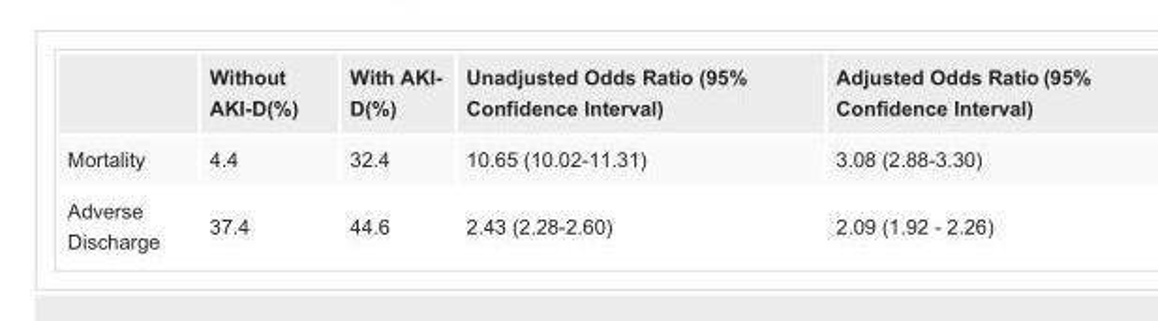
<table><thead><tr><td></td><td>Without AKI-D(%)</td><td>With AKI- D(%)</td><td>Unadjusted Odds Ratio (95% Confidence Interval)</td><td>Adjusted Odds Ratio (95% Confidence Interval)</td></tr></thead><tbody><tr><td>Mortality</td><td>4.4</td><td>32.4</td><td>10.65 (10.02-11.31)</td><td>3.08 (2.88-3.30)</td></tr><tr><td>Adverse Discharge</td><td>37.4</td><td>44.6</td><td>2.43 (2.28-2.60)</td><td>2.09 (1.92 - 2.26)</td></tr></tbody></table>